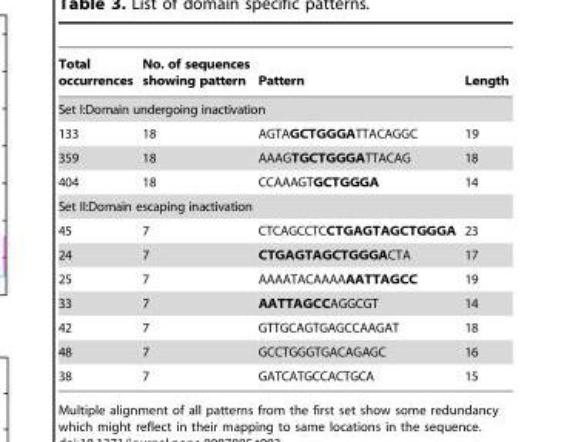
<table><thead><tr><td>Total occurrences</td><td>No. of sequences showing pattern</td><td>Pattern</td><td>Length</td></tr></thead><tbody><tr><td colspan="4">Set I:Domain undergoing inactivation</td></tr><tr><td>133</td><td>18</td><td>AGTAGCTGGGATTACAGGC</td><td>19</td></tr><tr><td>359</td><td>18</td><td>AAAGTGCTGGGATTACAG</td><td>18</td></tr><tr><td>404</td><td>18</td><td>CCAAAGTGCTGGGA</td><td>14</td></tr><tr><td colspan="4">Set II:Domain escaping inactivation</td></tr><tr><td>45</td><td>7</td><td>CTCAGCCTCCTGAGTAGCTGGGA</td><td>23</td></tr><tr><td>24</td><td>7</td><td>CTGAGTAGCTGGGACTA</td><td>17</td></tr><tr><td>25</td><td>7</td><td>AAAATACAAAAAATTAGCC</td><td>19</td></tr><tr><td>33</td><td>7</td><td>AATTAGCCAGGCGT</td><td>14</td></tr><tr><td>42</td><td>7</td><td>GTTGCAGTGAGCCAAGAT</td><td>18</td></tr><tr><td>48</td><td>7</td><td>GCCTGGGTGACAGAGC</td><td>16</td></tr><tr><td>38</td><td>7</td><td>GATCATGCCACTGCA</td><td>15</td></tr></tbody></table>